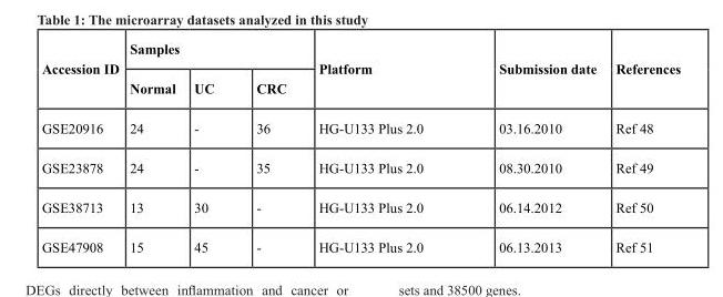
<table><thead><tr><td rowspan="2">Accession ID</td><td colspan="3">Samples</td><td rowspan="2">Platform</td><td rowspan="2">Submission date</td><td rowspan="2">References</td></tr><tr><td>Normal</td><td>UC</td><td>CRC</td></tr></thead><tbody><tr><td>GSE20916</td><td>24</td><td>-</td><td>36</td><td>HG-U133 Plus 2.0</td><td>03.16.2010</td><td>Ref 48</td></tr><tr><td>GSE23878</td><td>24</td><td>-</td><td>35</td><td>HG-U133 Plus 2.0</td><td>08.30.2010</td><td>Ref 49</td></tr><tr><td>GSE38713</td><td>13</td><td>30</td><td>-</td><td>HG-U133 Plus 2.0</td><td>06.14.2012</td><td>Ref 50</td></tr><tr><td>GSE47908</td><td>15</td><td>45</td><td>-</td><td>HG-U133 Plus 2.0</td><td>06.13.2013</td><td>Ref 51</td></tr></tbody></table>